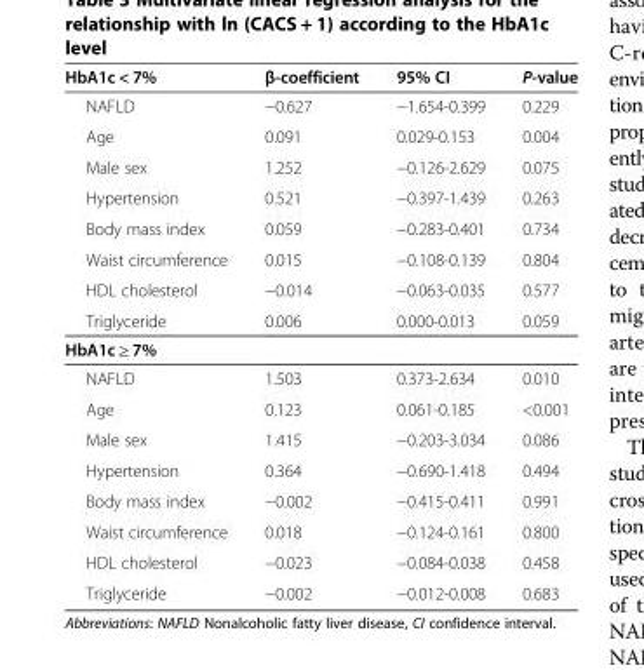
<table><thead><tr><td>HbA1c &lt; 7%</td><td>β-coefficient</td><td>95% CI</td><td>P-value</td></tr></thead><tbody><tr><td>NAFLD</td><td>−0.627</td><td>−1.654-0.399</td><td>0.229</td></tr><tr><td>Age</td><td>0.091</td><td>0.029-0.153</td><td>0.004</td></tr><tr><td>Male sex</td><td>1.252</td><td>−0.126-2.629</td><td>0.075</td></tr><tr><td>Hypertension</td><td>0.521</td><td>−0.397-1.439</td><td>0.263</td></tr><tr><td>Body mass index</td><td>0.059</td><td>−0.283-0.401</td><td>0.734</td></tr><tr><td>Waist circumference</td><td>0.015</td><td>−0.108-0.139</td><td>0.804</td></tr><tr><td>HDL cholesterol</td><td>−0.014</td><td>−0.063-0.035</td><td>0.577</td></tr><tr><td>Triglyceride</td><td>0.006</td><td>0.000-0.013</td><td>0.059</td></tr><tr><td colspan="4">HbA1c ≥ 7%</td></tr><tr><td>NAFLD</td><td>1.503</td><td>0.373-2.634</td><td>0.010</td></tr><tr><td>Age</td><td>0.123</td><td>0.061-0.185</td><td>&lt;0.001</td></tr><tr><td>Male sex</td><td>1.415</td><td>−0.203-3.034</td><td>0.086</td></tr><tr><td>Hypertension</td><td>0.364</td><td>−0.690-1.418</td><td>0.494</td></tr><tr><td>Body mass index</td><td>−0.002</td><td>−0.415-0.411</td><td>0.991</td></tr><tr><td>Waist circumference</td><td>0.018</td><td>−0.124-0.161</td><td>0.800</td></tr><tr><td>HDL cholesterol</td><td>−0.023</td><td>−0.084-0.038</td><td>0.458</td></tr><tr><td>Triglyceride</td><td>−0.002</td><td>−0.012-0.008</td><td>0.683</td></tr></tbody></table>